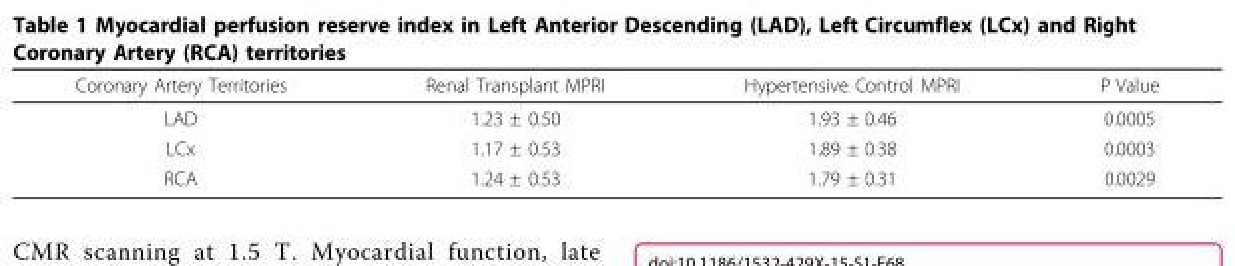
<table><thead><tr><td>Coronary Artery Territories</td><td>Renal Transplant MPRI</td><td>Hypertensive Control MPRI</td><td>P Value</td></tr></thead><tbody><tr><td>LAD</td><td>1.23 ± 0.50</td><td>1.93 ± 0.46</td><td>0.0005</td></tr><tr><td>LCx</td><td>1.17 ± 0.53</td><td>1.89 ± 0.38</td><td>0.0003</td></tr><tr><td>RCA</td><td>1.24 ± 0.53</td><td>1.79 ± 0.31</td><td>0.0029</td></tr></tbody></table>